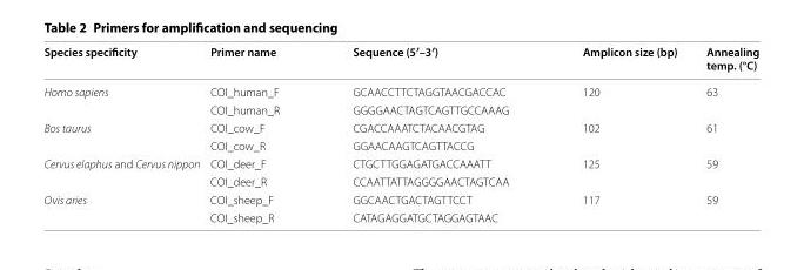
<table><thead><tr><td>Species specificity</td><td>Primer name</td><td>Sequence (5′–3′)</td><td>Amplicon size (bp)</td><td>Annealing temp. (°C)</td></tr></thead><tbody><tr><td rowspan="2">Homo sapiens</td><td>COI_human_F</td><td>GCA ACC TTC TAG GTA ACG ACCAC</td><td rowspan="2">120</td><td rowspan="2">63</td></tr><tr><td>COI_human_R</td><td>GGG GAA CTA GTC AGT TGC CAAAG</td></tr><tr><td rowspan="2">Bos taurus</td><td>COI_cow_F</td><td>CGA CCA AAT CTA CAA CGT AG</td><td rowspan="2">102</td><td rowspan="2">61</td></tr><tr><td>COI_cow_R</td><td>GGA ACA AGT CAG TTA CCG</td></tr><tr><td rowspan="2">Cervus elaphus and Cervus nippon</td><td>COI_deer_F</td><td>CTG CTT GGA GAT GAC CAA ATT</td><td rowspan="2">125</td><td rowspan="2">59</td></tr><tr><td>COI_deer_R</td><td>CCA ATT ATT AGG GGA ACT AGT CAA</td></tr><tr><td rowspan="2">Ovis aries</td><td>COI_sheep_F</td><td>GGC AAC TGA CTA GTT CCT</td><td rowspan="2">117</td><td rowspan="2">59</td></tr><tr><td>COI_sheep_R</td><td>CAT AGA GGA TGC TAG GAG TAAC</td></tr></tbody></table>